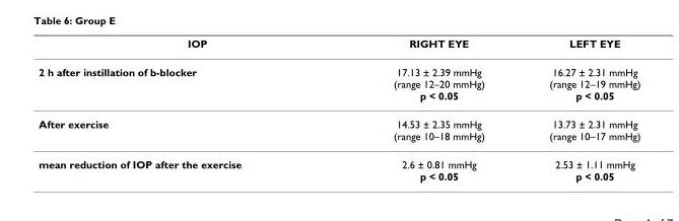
<table><thead><tr><td>IOP</td><td>RIGHT EYE</td><td>LEFT EYE</td></tr></thead><tbody><tr><td>2 h after instillation of b-blocker</td><td>17.13 ± 2.39 mmHg (range 12–20 mmHg) p &lt; 0.05</td><td>16.27 ± 2.31 mmHg (range 12–19 mmHg) p &lt; 0.05</td></tr><tr><td>After exercise</td><td>14.53 ± 2.35 mmHg (range 10–18 mmHg)</td><td>13.73 ± 2.31 mmHg (range 10–17 mmHg)</td></tr><tr><td>mean reduction of IOP after the exercise</td><td>2.6 ± 0.81 mmHg p &lt; 0.05</td><td>2.53 ± 1.11 mmHg p &lt; 0.05</td></tr></tbody></table>